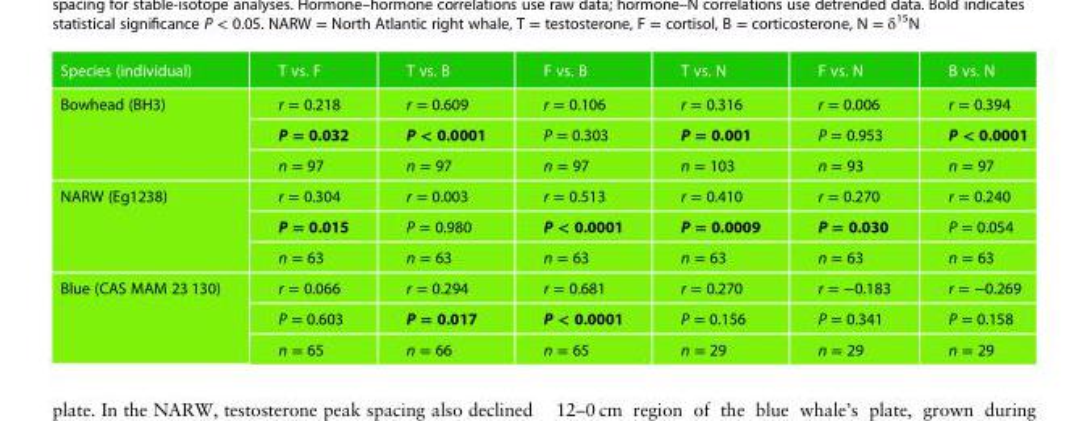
<table><thead><tr><td>Species (individual)</td><td>T vs. F</td><td>T vs. B</td><td>F vs. B</td><td>T vs. N</td><td>F vs. N</td><td>B vs. N</td></tr></thead><tbody><tr><td rowspan="3">Bowhead (BH3)</td><td>r = 0.218</td><td>r = 0.609</td><td>r = 0.106</td><td>r = 0.316</td><td>r = 0.006</td><td>r = 0.394</td></tr><tr><td>P = 0.032</td><td>P &lt; 0.0001</td><td>P = 0.303</td><td>P = 0.001</td><td>P = 0.953</td><td>P &lt; 0.0001</td></tr><tr><td>n = 97</td><td>n = 97</td><td>n = 97</td><td>n = 103</td><td>n = 93</td><td>n = 97</td></tr><tr><td rowspan="3">NARW (Eg1238)</td><td>r = 0.304</td><td>r = 0.003</td><td>r = 0.513</td><td>r = 0.410</td><td>r = 0.270</td><td>r = 0.240</td></tr><tr><td>P = 0.015</td><td>P = 0.980</td><td>P &lt; 0.0001</td><td>P = 0.0009</td><td>P = 0.030</td><td>P = 0.054</td></tr><tr><td>n = 63</td><td>n = 63</td><td>n = 63</td><td>n = 63</td><td>n = 63</td><td>n = 63</td></tr><tr><td rowspan="3">Blue (CAS MAM 23 130)</td><td>r = 0.066</td><td>r = 0.294</td><td>r = 0.681</td><td>r = 0.270</td><td>r = −0.183</td><td>r = −0.269</td></tr><tr><td>P = 0.603</td><td>P = 0.017</td><td>P &lt; 0.0001</td><td>P = 0.156</td><td>P = 0.341</td><td>P = 0.158</td></tr><tr><td>n = 65</td><td>n = 66</td><td>n = 65</td><td>n = 29</td><td>n = 29</td><td>n = 29</td></tr></tbody></table>